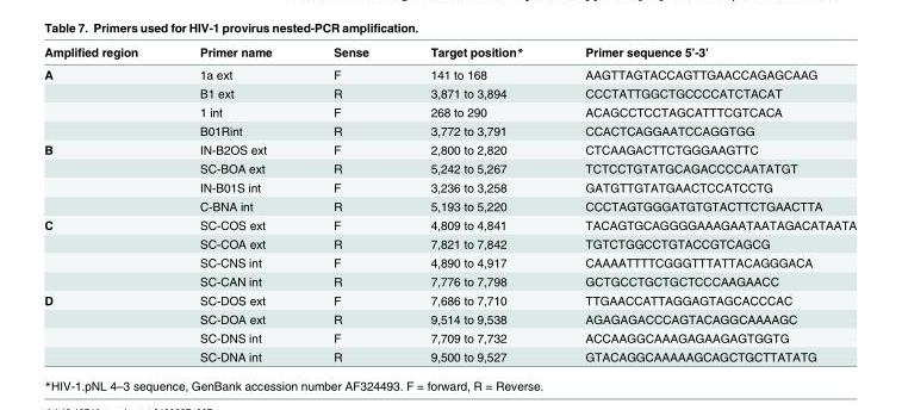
<table><thead><tr><td>Amplified region</td><td>Primer name</td><td>Sense</td><td>Target position*</td><td>Primer sequence 5’-3’</td></tr></thead><tbody><tr><td rowspan="4">A</td><td>1a ext</td><td>F</td><td>141 to 168</td><td>AAGTTAGTACCAGTTGAACCAGAGCAAG</td></tr><tr><td>B1 ext</td><td>R</td><td>3,871 to 3,894</td><td>CCCTATTGGCTGCCCCATCTACAT</td></tr><tr><td>1 int</td><td>F</td><td>268 to 290</td><td>ACAGCCTCCTAGCATTTCGTCACA</td></tr><tr><td>B01Rint</td><td>R</td><td>3,772 to 3,791</td><td>CCACTCAGGAATCCAGGTGG</td></tr><tr><td rowspan="4">B</td><td>IN-B2OS ext</td><td>F</td><td>2,800 to 2,820</td><td>CTCAAGACTTCTGGGAAGTTC</td></tr><tr><td>SC-BOA ext</td><td>R</td><td>5,242 to 5,267</td><td>TCTCCTGTATGCAGACCCCAATATGT</td></tr><tr><td>IN-B01S int</td><td>F</td><td>3,236 to 3,258</td><td>GATGTTGTATGAACTCCATCCTG</td></tr><tr><td>C-BNA int</td><td>R</td><td>5,193 to 5,220</td><td>CCCTAGTGGGATGTGTACTTCTGAACTTA</td></tr><tr><td rowspan="4">C</td><td>SC-COS ext</td><td>F</td><td>4,809 to 4,841</td><td>TACAGTGCAGGGGAAAGAATAATAGACATAATA</td></tr><tr><td>SC-COA ext</td><td>R</td><td>7,821 to 7,842</td><td>TGTCTGGCCTGTACCGTCAGCG</td></tr><tr><td>SC-CNS int</td><td>F</td><td>4,890 to 4,917</td><td>CAAAATTTTCGGGTTTATTACAGGGACA</td></tr><tr><td>SC-CAN int</td><td>R</td><td>7,776 to 7,798</td><td>GCTGCCTGCTGCTCCCAAGAACC</td></tr><tr><td rowspan="4">D</td><td>SC-DOS ext</td><td>F</td><td>7,686 to 7,710</td><td>TTGAACCATTAGGAGTAGCACCCAC</td></tr><tr><td>SC-DOA ext</td><td>R</td><td>9,514 to 9,538</td><td>AGAGAGACCCAGTACAGGCAAAAGC</td></tr><tr><td>SC-DNS int</td><td>F</td><td>7,709 to 7,732</td><td>ACCAAGGCAAAGAGAAGAGTGGTG</td></tr><tr><td>SC-DNA int</td><td>R</td><td>9,500 to 9,527</td><td>GTACAGGCAAAAAGCAGCTGCTTATATG</td></tr></tbody></table>